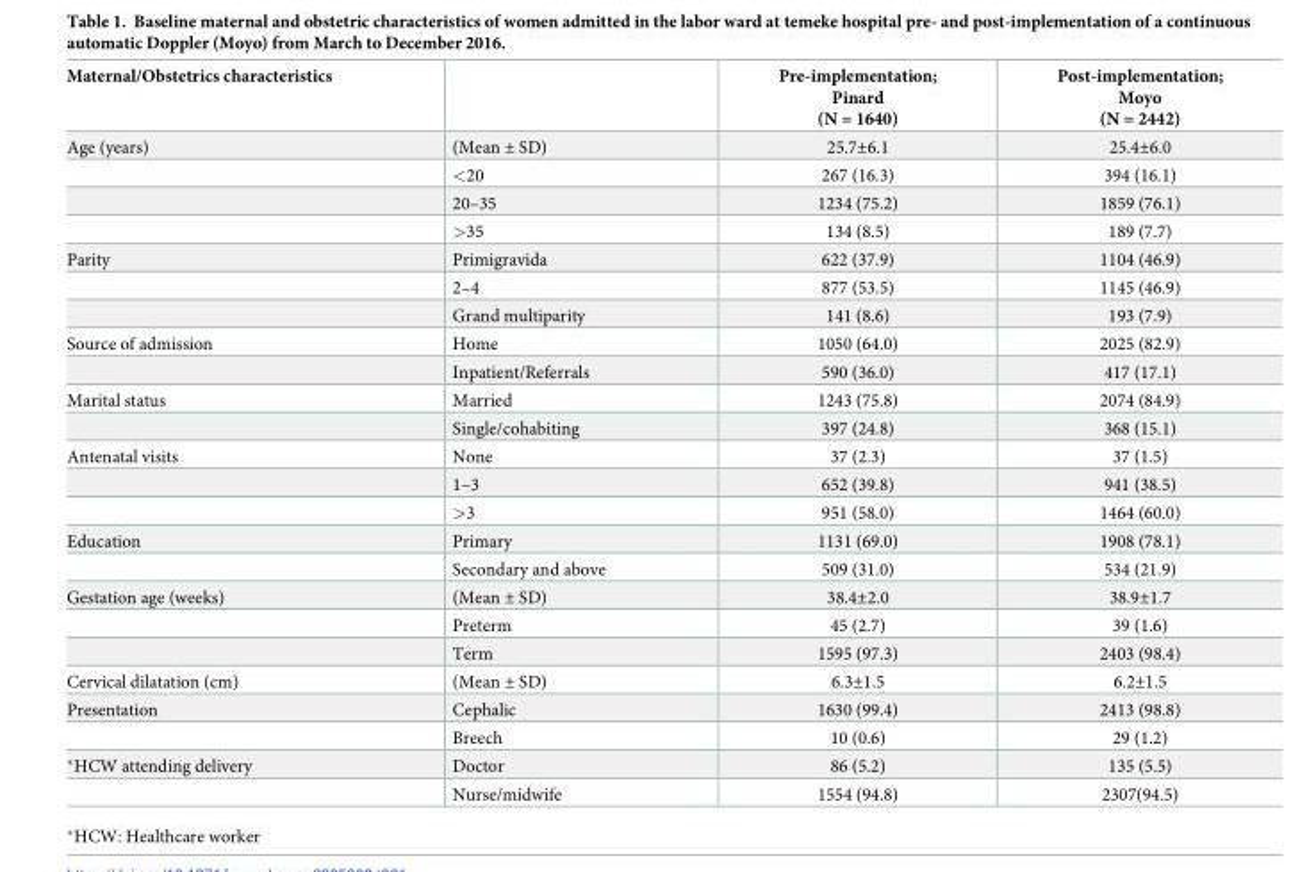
<table><thead><tr><td>Maternal/Obstetrics characteristics</td><td></td><td>Pre-implementation; Pinard (N = 1640)</td><td>Post-implementation; Moyo (N = 2442)</td></tr></thead><tbody><tr><td rowspan="4">Age (years)</td><td>(Mean ± SD)</td><td>25.7±6.1</td><td>25.4±6.0</td></tr><tr><td>&lt;20</td><td>267 (16.3)</td><td>394 (16.1)</td></tr><tr><td>20–35</td><td>1234 (75.2)</td><td>1859 (76.1)</td></tr><tr><td>&gt;35</td><td>134 (8.5)</td><td>189 (7.7)</td></tr><tr><td rowspan="3">Parity</td><td>Primigravida</td><td>622 (37.9)</td><td>1104 (46.9)</td></tr><tr><td>2–4</td><td>877 (53.5)</td><td>1145 (46.9)</td></tr><tr><td>Grand multiparity</td><td>141 (8.6)</td><td>193 (7.9)</td></tr><tr><td rowspan="2">Source of admission</td><td>Home</td><td>1050 (64.0)</td><td>2025 (82.9)</td></tr><tr><td>Inpatient/Referrals</td><td>590 (36.0)</td><td>417 (17.1)</td></tr><tr><td rowspan="2">Marital status</td><td>Married</td><td>1243 (75.8)</td><td>2074 (84.9)</td></tr><tr><td>Single/cohabiting</td><td>397 (24.8)</td><td>368 (15.1)</td></tr><tr><td rowspan="3">Antenatal visits</td><td>None</td><td>37 (2.3)</td><td>37 (1.5)</td></tr><tr><td>1–3</td><td>652 (39.8)</td><td>941 (38.5)</td></tr><tr><td>&gt;3</td><td>951 (58.0)</td><td>1464 (60.0)</td></tr><tr><td rowspan="2">Education</td><td>Primary</td><td>1131 (69.0)</td><td>1908 (78.1)</td></tr><tr><td>Secondary and above</td><td>509 (31.0)</td><td>534 (21.9)</td></tr><tr><td rowspan="3">Gestation age (weeks)</td><td>(Mean ± SD)</td><td>38.4±2.0</td><td>38.9±1.7</td></tr><tr><td>Preterm</td><td>45 (2.7)</td><td>39 (1.6)</td></tr><tr><td>Term</td><td>1595 (97.3)</td><td>2403 (98.4)</td></tr><tr><td>Cervical dilatation (cm)</td><td>(Mean ± SD)</td><td>6.3±1.5</td><td>6.2±1.5</td></tr><tr><td rowspan="2">Presentation</td><td>Cephalic</td><td>1630 (99.4)</td><td>2413 (98.8)</td></tr><tr><td>Breech</td><td>10 (0.6)</td><td>29 (1.2)</td></tr><tr><td rowspan="2">*HCW attending delivery</td><td>Doctor</td><td>86 (5.2)</td><td>135 (5.5)</td></tr><tr><td>Nurse/midwife</td><td>1554 (94.8)</td><td>2307(94.5)</td></tr></tbody></table>